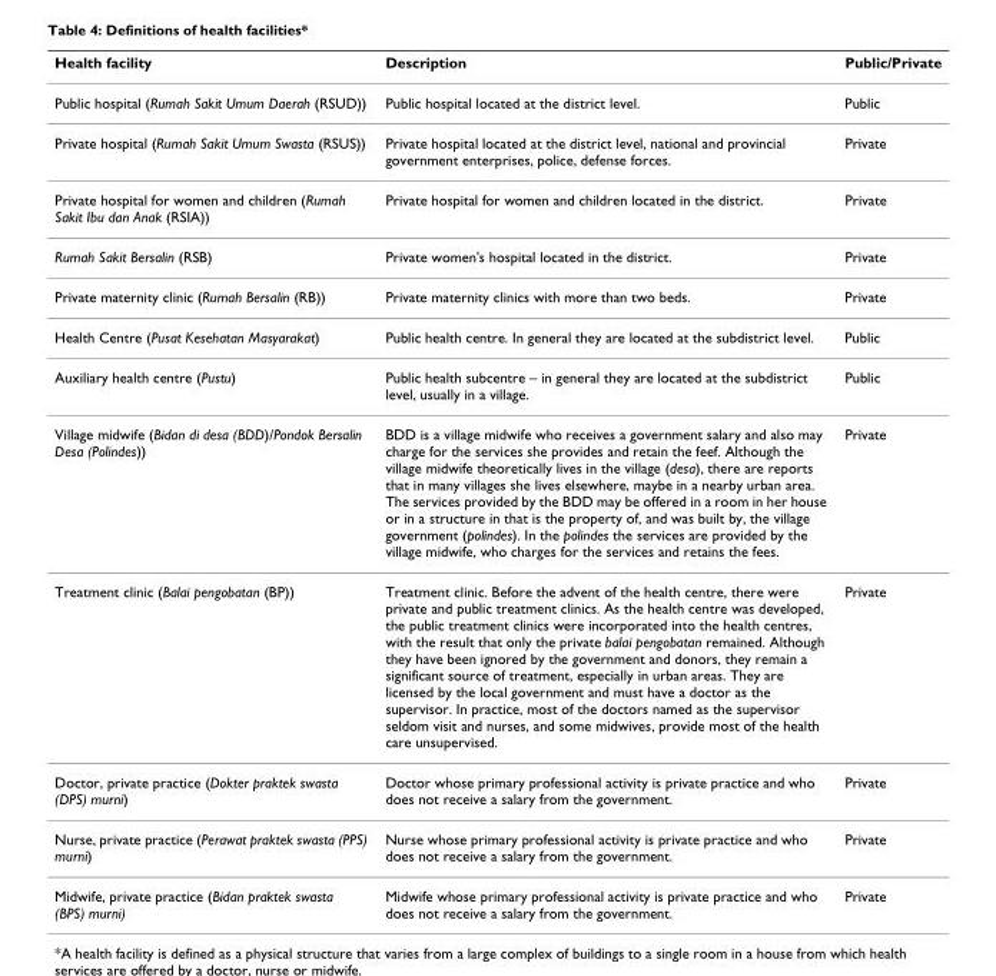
<table><thead><tr><td>Health facility</td><td>Description</td><td>Public/Private</td></tr></thead><tbody><tr><td>Public hospital (Rumah Sakit Umum Daerah (RSUD))</td><td>Public hospital located at the district level.</td><td>Public</td></tr><tr><td>Private hospital (Rumah Sakit Umum Swasta (RSUS))</td><td>Private hospital located at the district level, national and provincial government enterprises, police, defense forces.</td><td>Private</td></tr><tr><td>Private hospital for women and children (Rumah Sakit Ibu dan Anak (RSIA))</td><td>Private hospital for women and children located in the district.</td><td>Private</td></tr><tr><td>Rumah Sakit Bersalin (RSB)</td><td>Private women&#x27;s hospital located in the district.</td><td>Private</td></tr><tr><td>Private maternity clinic (Rumah Bersalin (RB))</td><td>Private maternity clinics with more than two beds.</td><td>Private</td></tr><tr><td>Health Centre (Pusat Kesehatan Masyarakat)</td><td>Public health centre. In general they are located at the subdistrict level.</td><td>Public</td></tr><tr><td>Auxiliary health centre (Pustu)</td><td>Public health subcentre – in general they are located at the subdistrict level, usually in a village.</td><td>Public</td></tr><tr><td>Village midwife (Bidan di desa (BDD)/Pondok Bersalin Desa (Polindes))</td><td>BDD is a village midwife who receives a government salary and also may charge for the services she provides and retain the feef. Although the village midwife theoretically lives in the village (desa), there are reports that in many villages she lives elsewhere, maybe in a nearby urban area. The services provided by the BDD may be offered in a room in her house or in a structure in that is the property of, and was built by, the village government (polindes). In the polindes the services are provided by the village midwife, who charges for the services and retains the fees.</td><td>Private</td></tr><tr><td>Treatment clinic (Balai pengobatan (BP))</td><td>Treatment clinic. Before the advent of the health centre, there were private and public treatment clinics. As the health centre was developed, the public treatment clinics were incorporated into the health centres, with the result that only the private balai pengobatan remained. Although they have been ignored by the government and donors, they remain a significant source of treatment, especially in urban areas. They are licensed by the local government and must have a doctor as the supervisor. In practice, most of the doctors named as the supervisor seldom visit and nurses, and some midwives, provide most of the health care unsupervised.</td><td>Private</td></tr><tr><td>Doctor, private practice (Dokter praktek swasta (DPS) murni)</td><td>Doctor whose primary professional activity is private practice and who does not receive a salary from the government.</td><td>Private</td></tr><tr><td>Nurse, private practice (Perawat praktek swasta (PPS) murni)</td><td>Nurse whose primary professional activity is private practice and who does not receive a salary from the government.</td><td>Private</td></tr><tr><td>Midwife, private practice (Bidan praktek swasta (BPS) murni)</td><td>Midwife whose primary professional activity is private practice and who does not receive a salary from the government.</td><td>Private</td></tr></tbody></table>